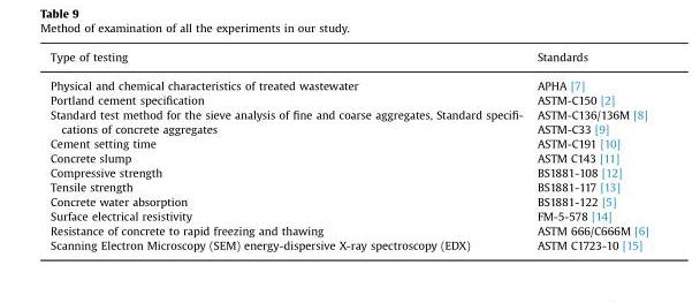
<table><thead><tr><td>Type of testing</td><td>Standards</td></tr></thead><tbody><tr><td>Physical and chemical characteristics of treated wastewater</td><td>APHA [7]</td></tr><tr><td>Portland cement specification</td><td>ASTM-C150 [2]</td></tr><tr><td>Standard test method for the sieve analysis of fine and coarse aggregates, Standard specifi- cations of concrete aggregates</td><td>ASTM-C136/136M [8] ASTM-C33 [9]</td></tr><tr><td>Cement setting time</td><td>ASTM-C191 [10]</td></tr><tr><td>Concrete slump</td><td>ASTM C143 [11]</td></tr><tr><td>Compressive strength</td><td>BS1881-108 [12]</td></tr><tr><td>Tensile strength</td><td>BS1881-117 [13]</td></tr><tr><td>Concrete water absorption</td><td>BS1881-122 [5]</td></tr><tr><td>Surface electrical resistivity</td><td>FM-5-578 [14]</td></tr><tr><td>Resistance of concrete to rapid freezing and thawing</td><td>ASTM 666/C666M [6]</td></tr><tr><td>Scanning Electron Microscopy (SEM) energy-dispersive X-ray spectroscopy (EDX)</td><td>ASTM C1723-10 [15]</td></tr></tbody></table>